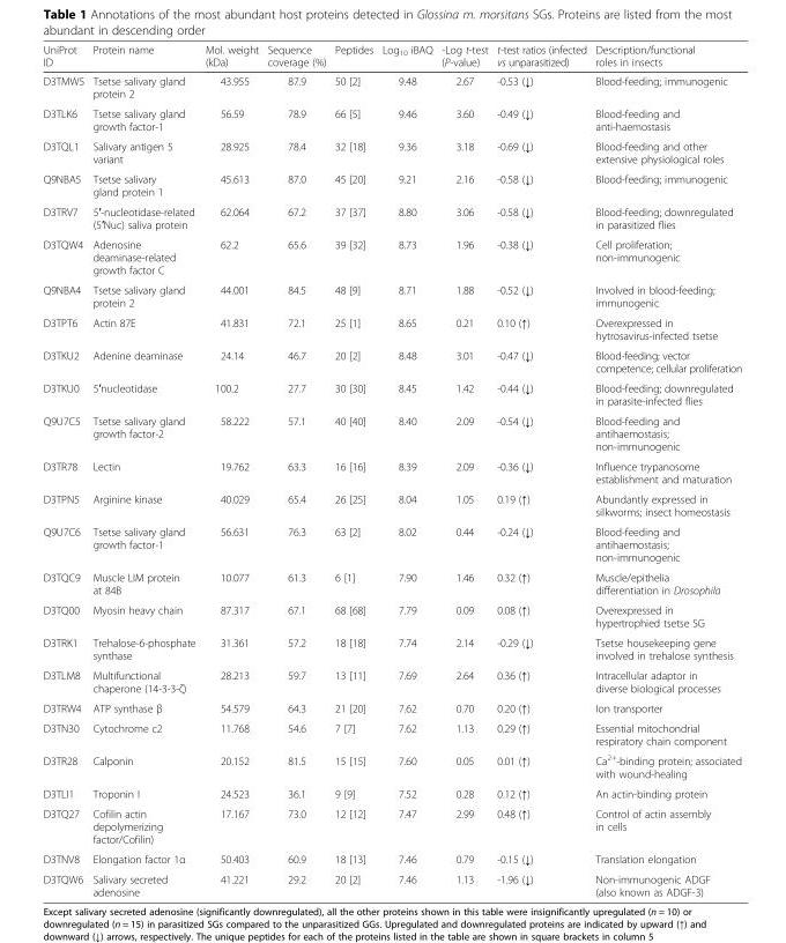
<table><thead><tr><td>UniProt ID</td><td>Protein name</td><td>Mol. weight (kDa)</td><td>Sequence coverage (%)</td><td>Peptides</td><td>Log<sub>10</sub> iBAQ</td><td>-Log t-test (P-value)</td><td>t-test ratios (infected vs unparasitized)</td><td>Description/functional roles in insects</td></tr></thead><tbody><tr><td>D3TMW5</td><td>Tsetse salivary gland protein 2</td><td>43.955</td><td>87.9</td><td>50 [2]</td><td>9.48</td><td>2.67</td><td>-0.53 (↓)</td><td>Blood-feeding; immunogenic</td></tr><tr><td>D3TLK6</td><td>Tsetse salivary gland growth factor-1</td><td>56.59</td><td>78.9</td><td>66 [5]</td><td>9.46</td><td>3.60</td><td>-0.49 (↓)</td><td>Blood-feeding and anti-haemostasis</td></tr><tr><td>D3TQL1</td><td>Salivary antigen 5 variant</td><td>28.925</td><td>78.4</td><td>32 [18]</td><td>9.36</td><td>3.18</td><td>-0.69 (↓)</td><td>Blood-feeding and other extensive physiological roles</td></tr><tr><td>Q9NBA5</td><td>Tsetse salivary gland protein 1</td><td>45.613</td><td>87.0</td><td>45 [20]</td><td>9.21</td><td>2.16</td><td>-0.58 (↓)</td><td>Blood-feeding; immunogenic</td></tr><tr><td>D3TRV7</td><td>5′-nucleotidase-related (5′Nuc) saliva protein</td><td>62.064</td><td>67.2</td><td>37 [37]</td><td>8.80</td><td>3.06</td><td>-0.58 (↓)</td><td>Blood-feeding; downregulated in parasitized flies</td></tr><tr><td>D3TQW4</td><td>Adenosine deaminase-related growth factor C</td><td>62.2</td><td>65.6</td><td>39 [32]</td><td>8.73</td><td>1.96</td><td>-0.38 (↓)</td><td>Cell proliferation; non-immunogenic</td></tr><tr><td>Q9NBA4</td><td>Tsetse salivary gland protein 2</td><td>44.001</td><td>84.5</td><td>48 [9]</td><td>8.71</td><td>1.88</td><td>-0.52 (↓)</td><td>Involved in blood-feeding; immunogenic</td></tr><tr><td>D3TPT6</td><td>Actin 87E</td><td>41.831</td><td>72.1</td><td>25 [1]</td><td>8.65</td><td>0.21</td><td>0.10 (↑)</td><td>Overexpressed in hytrosavirus-infected tsetse</td></tr><tr><td>D3TKU2</td><td>Adenine deaminase</td><td>24.14</td><td>46.7</td><td>20 [2]</td><td>8.48</td><td>3.01</td><td>-0.47 (↓)</td><td>Blood-feeding; vector competence; cellular proliferation</td></tr><tr><td>D3TKU0</td><td>5′nucleotidase</td><td>100.2</td><td>27.7</td><td>30 [30]</td><td>8.45</td><td>1.42</td><td>-0.44 (↓)</td><td>Blood-feeding; downregulated in parasite-infected flies</td></tr><tr><td>Q9U7C5</td><td>Tsetse salivary gland growth factor-2</td><td>58.222</td><td>57.1</td><td>40 [40]</td><td>8.40</td><td>2.09</td><td>-0.54 (↓)</td><td>Blood-feeding and antihaemostasis; non-immunogenic</td></tr><tr><td>D3TR78</td><td>Lectin</td><td>19.762</td><td>63.3</td><td>16 [16]</td><td>8.39</td><td>2.09</td><td>-0.36 (↓)</td><td>Influence trypanosome establishment and maturation</td></tr><tr><td>D3TPN5</td><td>Arginine kinase</td><td>40.029</td><td>65.4</td><td>26 [25]</td><td>8.04</td><td>1.05</td><td>0.19 (↑)</td><td>Abundantly expressed in silkworms; insect homeostasis</td></tr><tr><td>Q9U7C6</td><td>Tsetse salivary gland growth factor-1</td><td>56.631</td><td>76.3</td><td>63 [2]</td><td>8.02</td><td>0.44</td><td>-0.24 (↓)</td><td>Blood-feeding and antihaemostasis; non-immunogenic</td></tr><tr><td>D3TQC9</td><td>Muscle LIM protein at 84B</td><td>10.077</td><td>61.3</td><td>6 [1]</td><td>7.90</td><td>1.46</td><td>0.32 (↑)</td><td>Muscle/epithelia differentiation in Drosophila</td></tr><tr><td>D3TQ00</td><td>Myosin heavy chain</td><td>87.317</td><td>67.1</td><td>68 [68]</td><td>7.79</td><td>0.09</td><td>0.08 (↑)</td><td>Overexpressed in hypertrophied tsetse SG</td></tr><tr><td>D3TRK1</td><td>Trehalose-6-phosphate synthase</td><td>31.361</td><td>57.2</td><td>18 [18]</td><td>7.74</td><td>2.14</td><td>-0.29 (↓)</td><td>Tsetse housekeeping gene involved in trehalose synthesis</td></tr><tr><td>D3TLM8</td><td>Multifunctional chaperone (14-3-3-ζ)</td><td>28.213</td><td>59.7</td><td>13 [11]</td><td>7.69</td><td>2.64</td><td>0.36 (↑)</td><td>Intracellular adaptor in diverse biological processes</td></tr><tr><td>D3TRW4</td><td>ATP synthase β</td><td>54.579</td><td>64.3</td><td>21 [20]</td><td>7.62</td><td>0.70</td><td>0.20 (↑)</td><td>Ion transporter</td></tr><tr><td>D3TN30</td><td>Cytochrome c2</td><td>11.768</td><td>54.6</td><td>7 [7]</td><td>7.62</td><td>1.13</td><td>0.29 (↑)</td><td>Essential mitochondrial respiratory chain component</td></tr><tr><td>D3TR28</td><td>Calponin</td><td>20.152</td><td>81.5</td><td>15 [15]</td><td>7.60</td><td>0.05</td><td>0.01 (↑)</td><td>Ca<sup>2+</sup>-binding protein; associated with wound-healing</td></tr><tr><td>D3TLI1</td><td>Troponin I</td><td>24.523</td><td>36.1</td><td>9 [9]</td><td>7.52</td><td>0.28</td><td>0.12 (↑)</td><td>An actin-binding protein</td></tr><tr><td>D3TQ27</td><td>Cofilin actin depolymerizing factor/Cofilin)</td><td>17.167</td><td>73.0</td><td>12 [12]</td><td>7.47</td><td>2.99</td><td>0.48 (↑)</td><td>Control of actin assembly in cells</td></tr><tr><td>D3TNV8</td><td>Elongation factor 1α</td><td>50.403</td><td>60.9</td><td>18 [13]</td><td>7.46</td><td>0.79</td><td>-0.15 (↓)</td><td>Translation elongation</td></tr><tr><td>D3TQW6</td><td>Salivary secreted adenosine</td><td>41.221</td><td>29.2</td><td>20 [2]</td><td>7.46</td><td>1.13</td><td>-1.96 (↓)</td><td>Non-immunogenic ADGF (also known as ADGF-3)</td></tr></tbody></table>